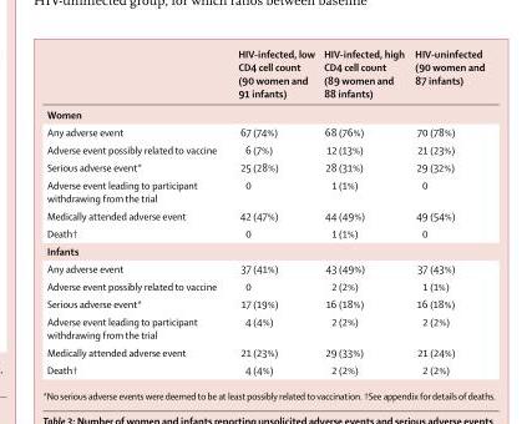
<table><thead><tr><td></td><td>HIV-infected, low CD4 cell count (90 women and 91 infants)</td><td>HIV-infected, high CD4 cell count (89 women and 88 infants)</td><td>HIV-uninfected (90 women and 87 infants)</td></tr></thead><tbody><tr><td colspan="4">Women</td></tr><tr><td>Any adverse event</td><td>67 (74%)</td><td>68 (76%)</td><td>70 (78%)</td></tr><tr><td>Adverse event possibly related to vaccine</td><td>6 (7%)</td><td>12 (13%)</td><td>21 (23%)</td></tr><tr><td>Serious adverse event*</td><td>25 (28%)</td><td>28 (31%)</td><td>29 (32%)</td></tr><tr><td>Adverse event leading to participant withdrawing from the trial</td><td>0</td><td>1 (1%)</td><td>0</td></tr><tr><td>Medically attended adverse event</td><td>42 (47%)</td><td>44 (49%)</td><td>49 (54%)</td></tr><tr><td>Death†</td><td>0</td><td>1 (1%)</td><td>0</td></tr><tr><td colspan="4">Infants</td></tr><tr><td>Any adverse event</td><td>37 (41%)</td><td>43 (49%)</td><td>37 (43%)</td></tr><tr><td>Adverse event possibly related to vaccine</td><td>0</td><td>2 (2%)</td><td>1 (1%)</td></tr><tr><td>Serious adverse event*</td><td>17 (19%)</td><td>16 (18%)</td><td>16 (18%)</td></tr><tr><td>Adverse event leading to participant withdrawing from the trial</td><td>4 (4%)</td><td>2 (2%)</td><td>2 (2%)</td></tr><tr><td>Medically attended adverse event</td><td>21 (23%)</td><td>29 (33%)</td><td>21 (24%)</td></tr><tr><td>Death†</td><td>4 (4%)</td><td>2 (2%)</td><td>2 (2%)</td></tr></tbody></table>